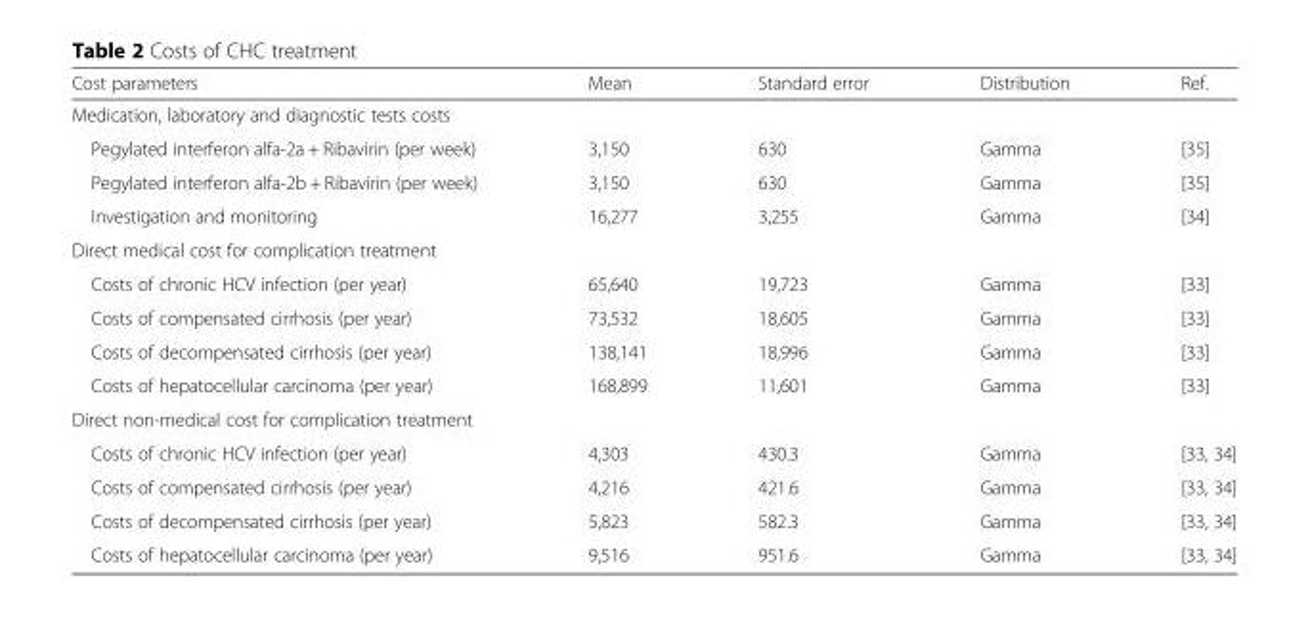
<table><thead><tr><td>Cost parameters</td><td>Mean</td><td>Standard error</td><td>Distribution</td><td>Ref.</td></tr></thead><tbody><tr><td colspan="5">Medication, laboratory and diagnostic tests costs</td></tr><tr><td>Pegylated interferon alfa-2a + Ribavirin (per week)</td><td>3,150</td><td>630</td><td>Gamma</td><td>[35]</td></tr><tr><td>Pegylated interferon alfa-2b + Ribavirin (per week)</td><td>3,150</td><td>630</td><td>Gamma</td><td>[35]</td></tr><tr><td>Investigation and monitoring</td><td>16,277</td><td>3,255</td><td>Gamma</td><td>[34]</td></tr><tr><td colspan="5">Direct medical cost for complication treatment</td></tr><tr><td>Costs of chronic HCV infection (per year)</td><td>65,640</td><td>19,723</td><td>Gamma</td><td>[33]</td></tr><tr><td>Costs of compensated cirrhosis (per year)</td><td>73,532</td><td>18,605</td><td>Gamma</td><td>[33]</td></tr><tr><td>Costs of decompensated cirrhosis (per year)</td><td>138,141</td><td>18,996</td><td>Gamma</td><td>[33]</td></tr><tr><td>Costs of hepatocellular carcinoma (per year)</td><td>168,899</td><td>11,601</td><td>Gamma</td><td>[33]</td></tr><tr><td colspan="5">Direct non-medical cost for complication treatment</td></tr><tr><td>Costs of chronic HCV infection (per year)</td><td>4,303</td><td>430.3</td><td>Gamma</td><td>[33, 34]</td></tr><tr><td>Costs of compensated cirrhosis (per year)</td><td>4,216</td><td>421.6</td><td>Gamma</td><td>[33, 34]</td></tr><tr><td>Costs of decompensated cirrhosis (per year)</td><td>5,823</td><td>582.3</td><td>Gamma</td><td>[33, 34]</td></tr><tr><td>Costs of hepatocellular carcinoma (per year)</td><td>9,516</td><td>951.6</td><td>Gamma</td><td>[33, 34]</td></tr></tbody></table>